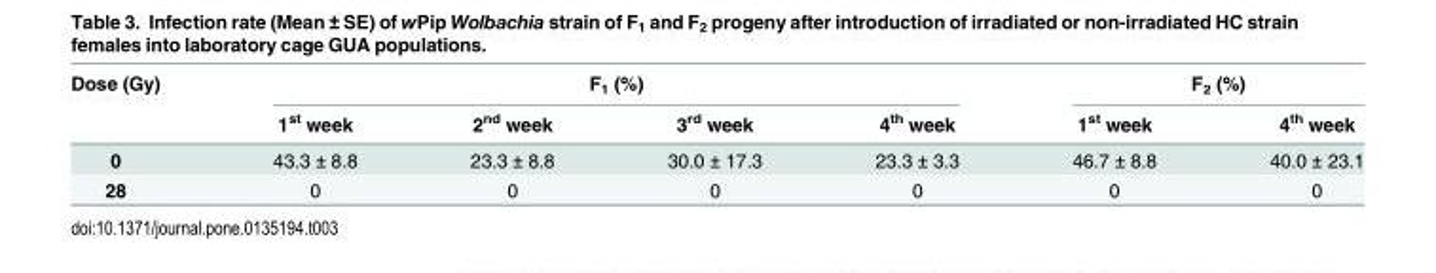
<table><thead><tr><td rowspan="2">Dose (Gy)</td><td colspan="4">F<sub>1</sub> (%)</td><td colspan="2">F<sub>2</sub> (%)</td></tr><tr><td>1<sup>st</sup> week</td><td>2<sup>nd</sup> week</td><td>3<sup>rd</sup> week</td><td>4<sup>th</sup> week</td><td>1<sup>st</sup> week</td><td>4<sup>th</sup> week</td></tr></thead><tbody><tr><td>0</td><td>43.3 ± 8.8</td><td>23.3 ± 8.8</td><td>30.0 ± 17.3</td><td>23.3 ± 3.3</td><td>46.7 ± 8.8</td><td>40.0 ± 23.1</td></tr><tr><td>28</td><td>0</td><td>0</td><td>0</td><td>0</td><td>0</td><td>0</td></tr></tbody></table>